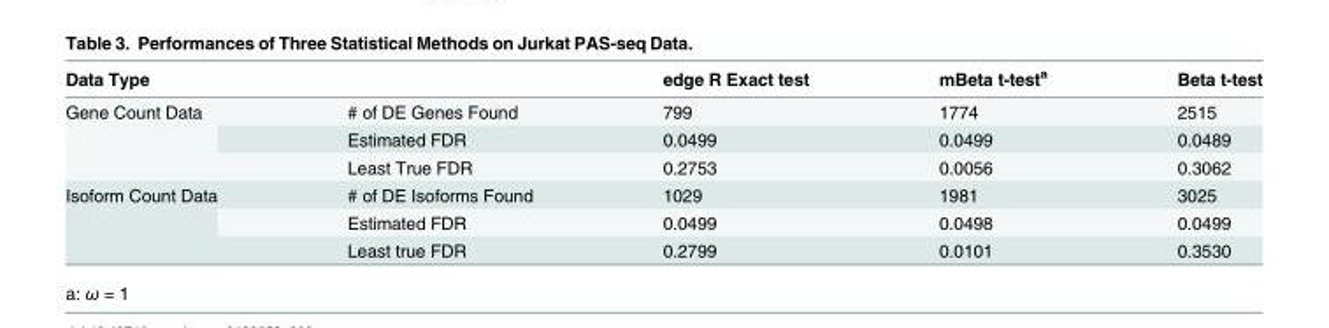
<table><thead><tr><td>Data Type</td><td></td><td>edge R Exact test</td><td>mBeta t-test<sup>a</sup></td><td>Beta t-test</td></tr></thead><tbody><tr><td rowspan="3">Gene Count Data</td><td># of DE Genes Found</td><td>799</td><td>1774</td><td>2515</td></tr><tr><td>Estimated FDR</td><td>0.0499</td><td>0.0499</td><td>0.0489</td></tr><tr><td>Least True FDR</td><td>0.2753</td><td>0.0056</td><td>0.3062</td></tr><tr><td rowspan="3">Isoform Count Data</td><td># of DE Isoforms Found</td><td>1029</td><td>1981</td><td>3025</td></tr><tr><td>Estimated FDR</td><td>0.0499</td><td>0.0498</td><td>0.0499</td></tr><tr><td>Least true FDR</td><td>0.2799</td><td>0.0101</td><td>0.3530</td></tr></tbody></table>